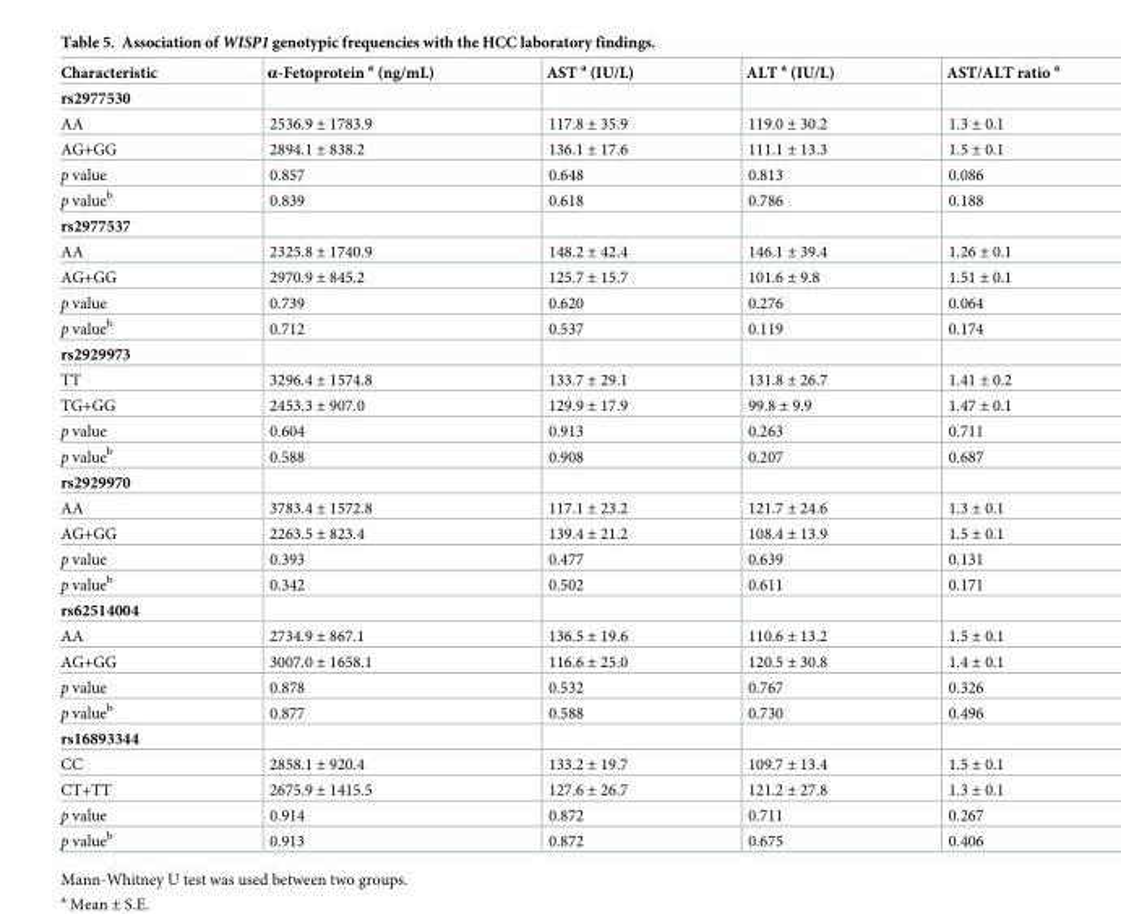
<table><thead><tr><td>Characteristic</td><td>α-Fetoprotein <sup>a</sup> (ng/mL)</td><td>AST <sup>a</sup> (IU/L)</td><td>ALT <sup>a</sup> (IU/L)</td><td>AST/ALT ratio <sup>a</sup></td></tr></thead><tbody><tr><td colspan="5">rs2977530</td></tr><tr><td>AA</td><td>2536.9 ± 1783.9</td><td>117.8 ± 35.9</td><td>119.0 ± 30.2</td><td>1.3 ± 0.1</td></tr><tr><td>AG+GG</td><td>2894.1 ± 838.2</td><td>136.1 ± 17.6</td><td>111.1 ± 13.3</td><td>1.5 ± 0.1</td></tr><tr><td>p value</td><td>0.857</td><td>0.648</td><td>0.813</td><td>0.086</td></tr><tr><td>p value<sup>b</sup></td><td>0.839</td><td>0.618</td><td>0.786</td><td>0.188</td></tr><tr><td colspan="5">rs2977537</td></tr><tr><td>AA</td><td>2325.8 ± 1740.9</td><td>148.2 ± 42.4</td><td>146.1 ± 39.4</td><td>1.26 ± 0.1</td></tr><tr><td>AG+GG</td><td>2970.9 ± 845.2</td><td>125.7 ± 15.7</td><td>101.6 ± 9.8</td><td>1.51 ± 0.1</td></tr><tr><td>p value</td><td>0.739</td><td>0.620</td><td>0.276</td><td>0.064</td></tr><tr><td>p value<sup>b</sup></td><td>0.712</td><td>0.537</td><td>0.119</td><td>0.174</td></tr><tr><td colspan="5">rs2929973</td></tr><tr><td>TT</td><td>3296.4 ± 1574.8</td><td>133.7 ± 29.1</td><td>131.8 ± 26.7</td><td>1.41 ± 0.2</td></tr><tr><td>TG+GG</td><td>2453.3 ± 907.0</td><td>129.9 ± 17.9</td><td>99.8 ± 9.9</td><td>1.47 ± 0.1</td></tr><tr><td>p value</td><td>0.604</td><td>0.913</td><td>0.263</td><td>0.711</td></tr><tr><td>p value<sup>b</sup></td><td>0.588</td><td>0.908</td><td>0.207</td><td>0.687</td></tr><tr><td colspan="5">rs2929970</td></tr><tr><td>AA</td><td>3783.4 ± 1572.8</td><td>117.1 ± 23.2</td><td>121.7 ± 24.6</td><td>1.3 ± 0.1</td></tr><tr><td>AG+GG</td><td>2263.5 ± 823.4</td><td>139.4 ± 21.2</td><td>108.4 ± 13.9</td><td>1.5 ± 0.1</td></tr><tr><td>p value</td><td>0.393</td><td>0.477</td><td>0.639</td><td>0.131</td></tr><tr><td>p value<sup>b</sup></td><td>0.342</td><td>0.502</td><td>0.611</td><td>0.171</td></tr><tr><td colspan="5">rs62514004</td></tr><tr><td>AA</td><td>2734.9 ± 867.1</td><td>136.5 ± 19.6</td><td>110.6 ± 13.2</td><td>1.5 ± 0.1</td></tr><tr><td>AG+GG</td><td>3007.0 ± 1658.1</td><td>116.6 ± 25.0</td><td>120.5 ± 30.8</td><td>1.4 ± 0.1</td></tr><tr><td>p value</td><td>0.878</td><td>0.532</td><td>0.767</td><td>0.326</td></tr><tr><td>p value<sup>b</sup></td><td>0.877</td><td>0.588</td><td>0.730</td><td>0.496</td></tr><tr><td colspan="5">rs16893344</td></tr><tr><td>CC</td><td>2858.1 ± 920.4</td><td>133.2 ± 19.7</td><td>109.7 ± 13.4</td><td>1.5 ± 0.1</td></tr><tr><td>CT+TT</td><td>2675.9 ± 1415.5</td><td>127.6 ± 26.7</td><td>121.2 ± 27.8</td><td>1.3 ± 0.1</td></tr><tr><td>p value</td><td>0.914</td><td>0.872</td><td>0.711</td><td>0.267</td></tr><tr><td>p value<sup>b</sup></td><td>0.913</td><td>0.872</td><td>0.675</td><td>0.406</td></tr></tbody></table>